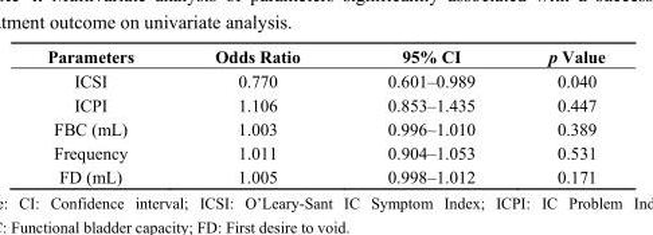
<table><thead><tr><td>Parameters</td><td>Odds Ratio</td><td>95% CI</td><td>p Value</td></tr></thead><tbody><tr><td>ICSI</td><td>0.770</td><td>0.601–0.989</td><td>0.040</td></tr><tr><td>ICPI</td><td>1.106</td><td>0.853–1.435</td><td>0.447</td></tr><tr><td>FBC (mL)</td><td>1.003</td><td>0.996–1.010</td><td>0.389</td></tr><tr><td>Frequency</td><td>1.011</td><td>0.904–1.053</td><td>0.531</td></tr><tr><td>FD (mL)</td><td>1.005</td><td>0.998–1.012</td><td>0.171</td></tr></tbody></table>